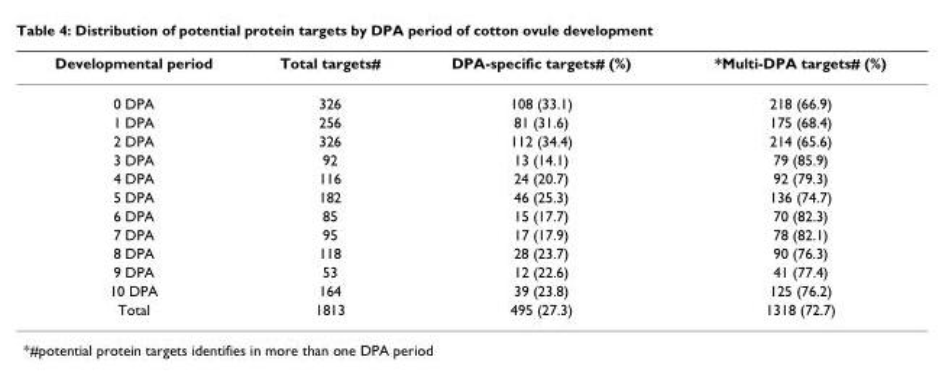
<table><thead><tr><td>Developmental period</td><td>Total targets#</td><td>DPA-specific targets# (%)</td><td>*Multi-DPA targets# (%)</td></tr></thead><tbody><tr><td>0 DPA</td><td>326</td><td>108 (33.1)</td><td>218 (66.9)</td></tr><tr><td>1 DPA</td><td>256</td><td>81 (31.6)</td><td>175 (68.4)</td></tr><tr><td>2 DPA</td><td>326</td><td>112 (34.4)</td><td>214 (65.6)</td></tr><tr><td>3 DPA</td><td>92</td><td>13 (14.1)</td><td>79 (85.9)</td></tr><tr><td>4 DPA</td><td>116</td><td>24 (20.7)</td><td>92 (79.3)</td></tr><tr><td>5 DPA</td><td>182</td><td>46 (25.3)</td><td>136 (74.7)</td></tr><tr><td>6 DPA</td><td>85</td><td>15 (17.7)</td><td>70 (82.3)</td></tr><tr><td>7 DPA</td><td>95</td><td>17 (17.9)</td><td>78 (82.1)</td></tr><tr><td>8 DPA</td><td>118</td><td>28 (23.7)</td><td>90 (76.3)</td></tr><tr><td>9 DPA</td><td>53</td><td>12 (22.6)</td><td>41 (77.4)</td></tr><tr><td>10 DPA</td><td>164</td><td>39 (23.8)</td><td>125 (76.2)</td></tr><tr><td>Total</td><td>1813</td><td>495 (27.3)</td><td>1318 (72.7)</td></tr></tbody></table>